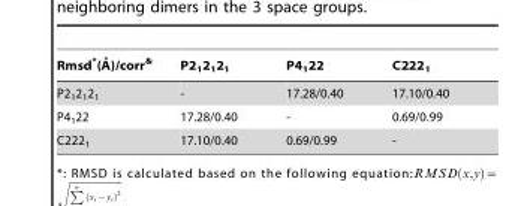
<table><thead><tr><td>Rmsd*(A˚ )/corr&amp;</td><td>P2<sub>1</sub>2<sub>1</sub>2<sub>1</sub></td><td>P4<sub>1</sub>22</td><td>C222<sub>1</sub></td></tr></thead><tbody><tr><td>P2<sub>1</sub>2<sub>1</sub>2<sub>1</sub></td><td>-</td><td>17.28/0.40</td><td>17.10/0.40</td></tr><tr><td>P4<sub>1</sub>22</td><td>17.28/0.40</td><td>-</td><td>0.69/0.99</td></tr><tr><td>C222<sub>1</sub></td><td>17.10/0.40</td><td>0.69/0.99</td><td>-</td></tr></tbody></table>